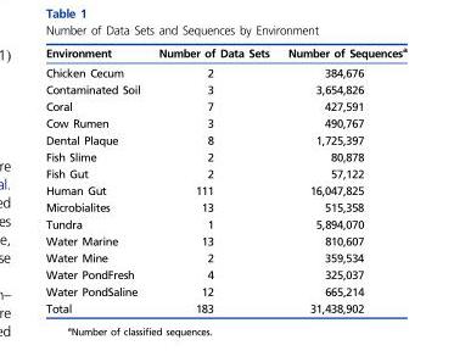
<table><thead><tr><td>Environment</td><td>Number of Data Sets</td><td>Number of Sequences<sup>a</sup></td></tr></thead><tbody><tr><td>Chicken Cecum</td><td>2</td><td>384,676</td></tr><tr><td>Contaminated Soil</td><td>3</td><td>3,654,826</td></tr><tr><td>Coral</td><td>7</td><td>427,591</td></tr><tr><td>Cow Rumen</td><td>3</td><td>490,767</td></tr><tr><td>Dental Plaque</td><td>8</td><td>1,725,397</td></tr><tr><td>Fish Slime</td><td>2</td><td>80,878</td></tr><tr><td>Fish Gut</td><td>2</td><td>57,122</td></tr><tr><td>Human Gut</td><td>111</td><td>16,047,825</td></tr><tr><td>Microbialites</td><td>13</td><td>515,358</td></tr><tr><td>Tundra</td><td>1</td><td>5,894,070</td></tr><tr><td>Water Marine</td><td>13</td><td>810,607</td></tr><tr><td>Water Mine</td><td>2</td><td>359,534</td></tr><tr><td>Water PondFresh</td><td>4</td><td>325,037</td></tr><tr><td>Water PondSaline</td><td>12</td><td>665,214</td></tr><tr><td>Total</td><td>183</td><td>31,438,902</td></tr></tbody></table>